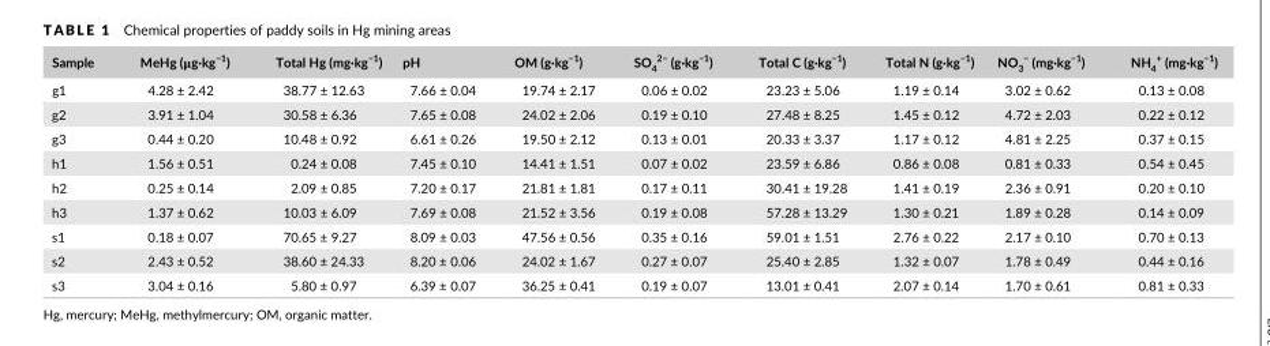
<table><thead><tr><td>Sample</td><td>MeHg (μg·kg<sup>−1</sup>)</td><td>Total Hg (mg·kg<sup>−1</sup>)</td><td>pH</td><td>OM (g·kg<sup>−1</sup>)</td><td>SO<sub>4</sub> <sup>2−</sup> (g·kg<sup>−1</sup>)</td><td>Total C (g·kg<sup>−1</sup>)</td><td>Total N (g·kg<sup>−1</sup>)</td><td>NO<sub>3</sub> <sup>−</sup> (mg·kg<sup>−1</sup>)</td><td>NH<sub>4</sub> <sup>+</sup> (mg·kg<sup>−1</sup>)</td></tr></thead><tbody><tr><td>g1</td><td>4.28 ± 2.42</td><td>38.77 ± 12.63</td><td>7.66 ± 0.04</td><td>19.74 ± 2.17</td><td>0.06 ± 0.02</td><td>23.23 ± 5.06</td><td>1.19 ± 0.14</td><td>3.02 ± 0.62</td><td>0.13 ± 0.08</td></tr><tr><td>g2</td><td>3.91 ± 1.04</td><td>30.58 ± 6.36</td><td>7.65 ± 0.08</td><td>24.02 ± 2.06</td><td>0.19 ± 0.10</td><td>27.48 ± 8.25</td><td>1.45 ± 0.12</td><td>4.72 ± 2.03</td><td>0.22 ± 0.12</td></tr><tr><td>g3</td><td>0.44 ± 0.20</td><td>10.48 ± 0.92</td><td>6.61 ± 0.26</td><td>19.50 ± 2.12</td><td>0.13 ± 0.01</td><td>20.33 ± 3.37</td><td>1.17 ± 0.12</td><td>4.81 ± 2.25</td><td>0.37 ± 0.15</td></tr><tr><td>h1</td><td>1.56 ± 0.51</td><td>0.24 ± 0.08</td><td>7.45 ± 0.10</td><td>14.41 ± 1.51</td><td>0.07 ± 0.02</td><td>23.59 ± 6.86</td><td>0.86 ± 0.08</td><td>0.81 ± 0.33</td><td>0.54 ± 0.45</td></tr><tr><td>h2</td><td>0.25 ± 0.14</td><td>2.09 ± 0.85</td><td>7.20 ± 0.17</td><td>21.81 ± 1.81</td><td>0.17 ± 0.11</td><td>30.41 ± 19.28</td><td>1.41 ± 0.19</td><td>2.36 ± 0.91</td><td>0.20 ± 0.10</td></tr><tr><td>h3</td><td>1.37 ± 0.62</td><td>10.03 ± 6.09</td><td>7.69 ± 0.08</td><td>21.52 ± 3.56</td><td>0.19 ± 0.08</td><td>57.28 ± 13.29</td><td>1.30 ± 0.21</td><td>1.89 ± 0.28</td><td>0.14 ± 0.09</td></tr><tr><td>s1</td><td>0.18 ± 0.07</td><td>70.65 ± 9.27</td><td>8.09 ± 0.03</td><td>47.56 ± 0.56</td><td>0.35 ± 0.16</td><td>59.01 ± 1.51</td><td>2.76 ± 0.22</td><td>2.17 ± 0.10</td><td>0.70 ± 0.13</td></tr><tr><td>s2</td><td>2.43 ± 0.52</td><td>38.60 ± 24.33</td><td>8.20 ± 0.06</td><td>24.02 ± 1.67</td><td>0.27 ± 0.07</td><td>25.40 ± 2.85</td><td>1.32 ± 0.07</td><td>1.78 ± 0.49</td><td>0.44 ± 0.16</td></tr><tr><td>s3</td><td>3.04 ± 0.16</td><td>5.80 ± 0.97</td><td>6.39 ± 0.07</td><td>36.25 ± 0.41</td><td>0.19 ± 0.07</td><td>13.01 ± 0.41</td><td>2.07 ± 0.14</td><td>1.70 ± 0.61</td><td>0.81 ± 0.33</td></tr></tbody></table>